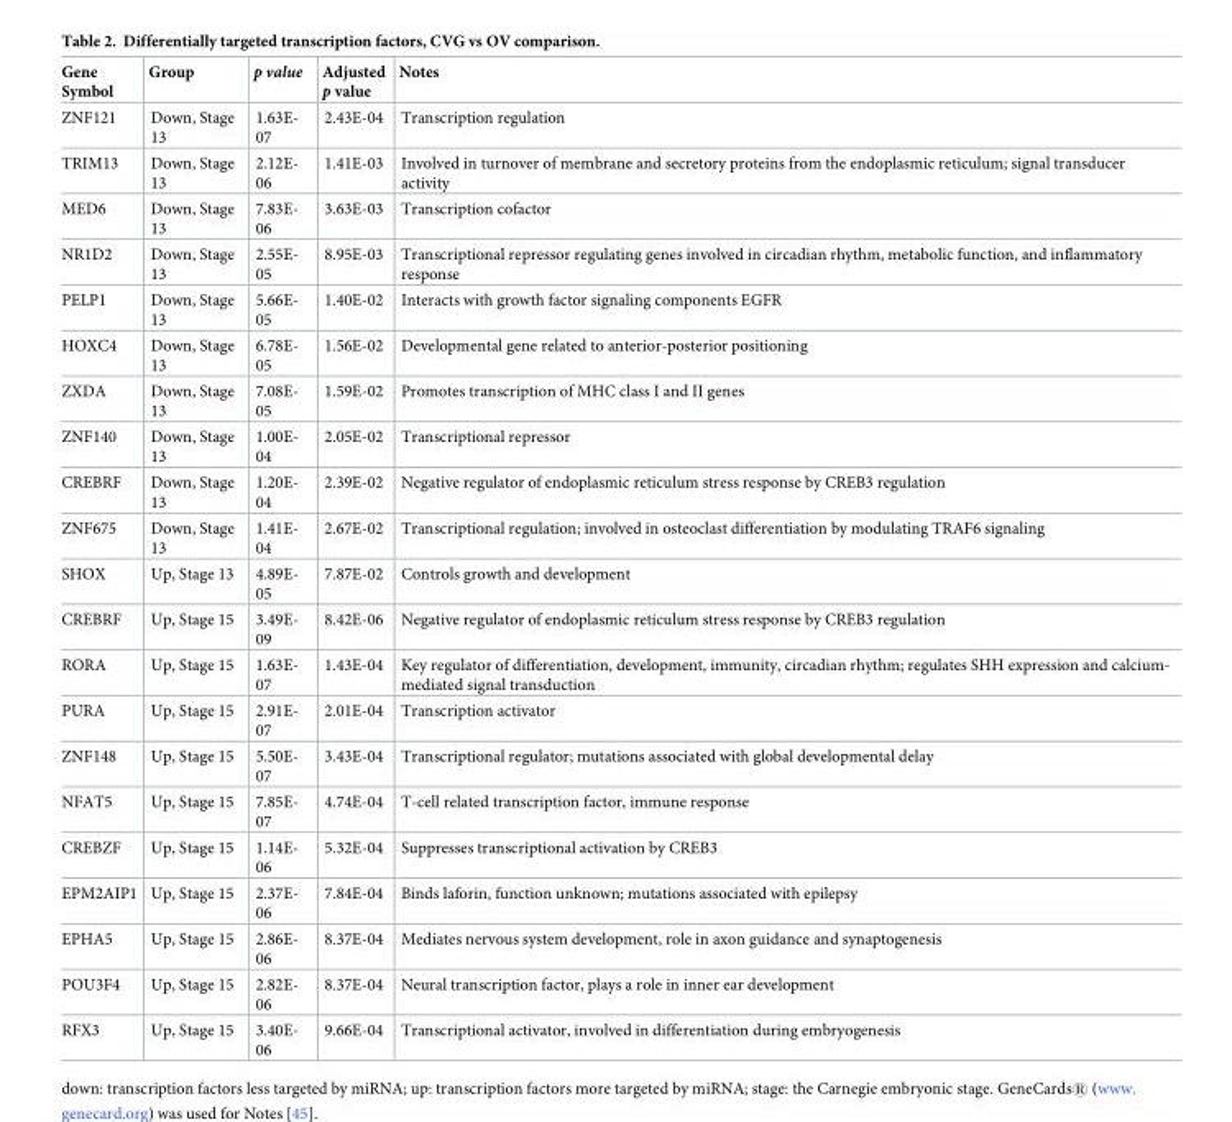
<table><thead><tr><td>Gene Symbol</td><td>Group</td><td>p value</td><td>Adjusted p value</td><td>Notes</td></tr></thead><tbody><tr><td>ZNF121</td><td>Down, Stage 13</td><td>1.63E- 07</td><td>2.43E-04</td><td>Transcription regulation</td></tr><tr><td>TRIM13</td><td>Down, Stage 13</td><td>2.12E- 06</td><td>1.41E-03</td><td>Involved in turnover of membrane and secretory proteins from the endoplasmic reticulum; signal transducer activity</td></tr><tr><td>MED6</td><td>Down, Stage 13</td><td>7.83E- 06</td><td>3.63E-03</td><td>Transcription cofactor</td></tr><tr><td>NR1D2</td><td>Down, Stage 13</td><td>2.55E- 05</td><td>8.95E-03</td><td>Transcriptional repressor regulating genes involved in circadian rhythm, metabolic function, and inflammatory response</td></tr><tr><td>PELP1</td><td>Down, Stage 13</td><td>5.66E- 05</td><td>1.40E-02</td><td>Interacts with growth factor signaling components EGFR</td></tr><tr><td>HOXC4</td><td>Down, Stage 13</td><td>6.78E- 05</td><td>1.56E-02</td><td>Developmental gene related to anterior-posterior positioning</td></tr><tr><td>ZXDA</td><td>Down, Stage 13</td><td>7.08E- 05</td><td>1.59E-02</td><td>Promotes transcription of MHC class I and II genes</td></tr><tr><td>ZNF140</td><td>Down, Stage 13</td><td>1.00E- 04</td><td>2.05E-02</td><td>Transcriptional repressor</td></tr><tr><td>CREBRF</td><td>Down, Stage 13</td><td>1.20E- 04</td><td>2.39E-02</td><td>Negative regulator of endoplasmic reticulum stress response by CREB3 regulation</td></tr><tr><td>ZNF675</td><td>Down, Stage 13</td><td>1.41E- 04</td><td>2.67E-02</td><td>Transcriptional regulation; involved in osteoclast differentiation by modulating TRAF6 signaling</td></tr><tr><td>SHOX</td><td>Up, Stage 13</td><td>4.89E- 05</td><td>7.87E-02</td><td>Controls growth and development</td></tr><tr><td>CREBRF</td><td>Up, Stage 15</td><td>3.49E- 09</td><td>8.42E-06</td><td>Negative regulator of endoplasmic reticulum stress response by CREB3 regulation</td></tr><tr><td>RORA</td><td>Up, Stage 15</td><td>1.63E- 07</td><td>1.43E-04</td><td>Key regulator of differentiation, development, immunity, circadian rhythm; regulates SHH expression and calcium- mediated signal transduction</td></tr><tr><td>PURA</td><td>Up, Stage 15</td><td>2.91E- 07</td><td>2.01E-04</td><td>Transcription activator</td></tr><tr><td>ZNF148</td><td>Up, Stage 15</td><td>5.50E- 07</td><td>3.43E-04</td><td>Transcriptional regulator; mutations associated with global developmental delay</td></tr><tr><td>NFAT5</td><td>Up, Stage 15</td><td>7.85E- 07</td><td>4.74E-04</td><td>T-cell related transcription factor, immune response</td></tr><tr><td>CREBZF</td><td>Up, Stage 15</td><td>1.14E- 06</td><td>5.32E-04</td><td>Suppresses transcriptional activation by CREB3</td></tr><tr><td>EPM2AIP1</td><td>Up, Stage 15</td><td>2.37E- 06</td><td>7.84E-04</td><td>Binds laforin, function unknown; mutations associated with epilepsy</td></tr><tr><td>EPHA5</td><td>Up, Stage 15</td><td>2.86E- 06</td><td>8.37E-04</td><td>Mediates nervous system development, role in axon guidance and synaptogenesis</td></tr><tr><td>POU3F4</td><td>Up, Stage 15</td><td>2.82E- 06</td><td>8.37E-04</td><td>Neural transcription factor, plays a role in inner ear development</td></tr><tr><td>RFX3</td><td>Up, Stage 15</td><td>3.40E- 06</td><td>9.66E-04</td><td>Transcriptional activator, involved in differentiation during embryogenesis</td></tr></tbody></table>